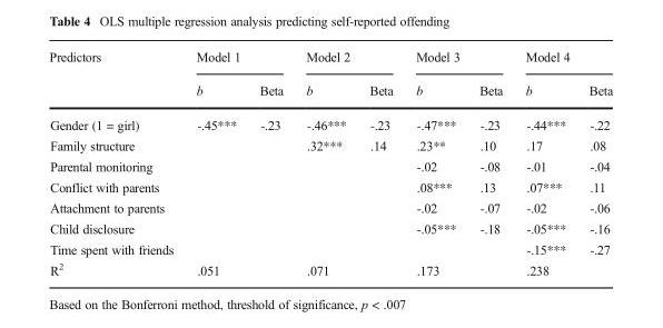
<table><thead><tr><td rowspan="2">Predictors</td><td colspan="2">Model 1</td><td colspan="2">Model 2</td><td colspan="2">Model 3</td><td colspan="2">Model 4</td></tr><tr><td>b</td><td>Beta</td><td>b</td><td>Beta</td><td>b</td><td>Beta</td><td>b</td><td>Beta</td></tr></thead><tbody><tr><td>Gender (1 = girl)</td><td>-.45***</td><td>-.23</td><td>-.46***</td><td>-.23</td><td>-.47***</td><td>-.23</td><td>-.44***</td><td>-.22</td></tr><tr><td>Family structure</td><td></td><td></td><td>.32***</td><td>.14</td><td>.23**</td><td>.10</td><td>.17</td><td>.08</td></tr><tr><td>Parental monitoring</td><td></td><td></td><td></td><td></td><td>-.02</td><td>-.08</td><td>-.01</td><td>-.04</td></tr><tr><td>Conflict with parents</td><td></td><td></td><td></td><td></td><td>.08***</td><td>.13</td><td>.07***</td><td>.11</td></tr><tr><td>Attachment to parents</td><td></td><td></td><td></td><td></td><td>-.02</td><td>-.07</td><td>-.02</td><td>-.06</td></tr><tr><td>Child disclosure</td><td></td><td></td><td></td><td></td><td>-.05***</td><td>-.18</td><td>-.05***</td><td>-.16</td></tr><tr><td>Time spent with friends</td><td></td><td></td><td></td><td></td><td></td><td></td><td>-.15***</td><td>-.27</td></tr><tr><td>R<sup>2</sup></td><td>.051</td><td></td><td>.071</td><td></td><td>.173</td><td></td><td>.238</td><td></td></tr></tbody></table>